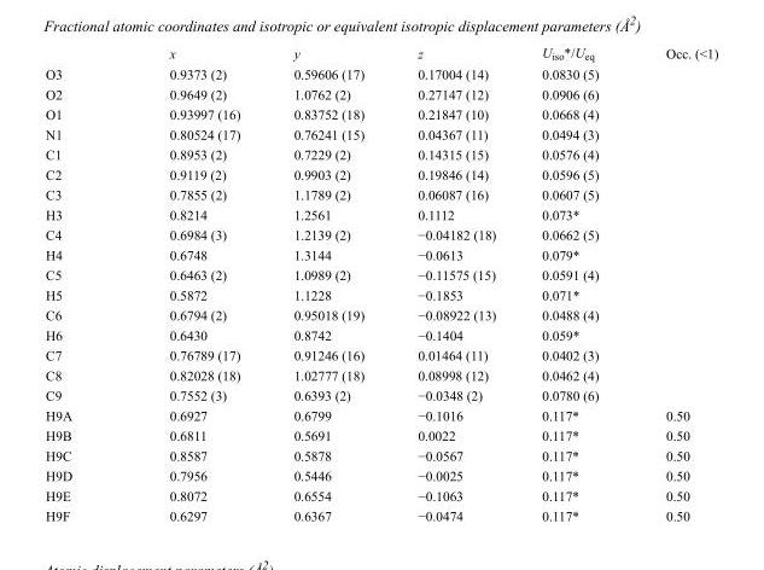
<table><thead><tr><td></td><td>x</td><td>y</td><td>z</td><td>U<sub>iso</sub>*/U<sub>eq</sub></td><td>Occ. (&lt;1)</td></tr></thead><tbody><tr><td>O3</td><td>0.9373 (2)</td><td>0.59606 (17)</td><td>0.17004 (14)</td><td>0.0830 (5)</td><td></td></tr><tr><td>O2</td><td>0.9649 (2)</td><td>1.0762 (2)</td><td>0.27147 (12)</td><td>0.0906 (6)</td><td></td></tr><tr><td>O1</td><td>0.93997 (16)</td><td>0.83752 (18)</td><td>0.21847 (10)</td><td>0.0668 (4)</td><td></td></tr><tr><td>N1</td><td>0.80524 (17)</td><td>0.76241 (15)</td><td>0.04367 (11)</td><td>0.0494 (3)</td><td></td></tr><tr><td>C1</td><td>0.8953 (2)</td><td>0.7229 (2)</td><td>0.14315 (15)</td><td>0.0576 (4)</td><td></td></tr><tr><td>C2</td><td>0.9119 (2)</td><td>0.9903 (2)</td><td>0.19846 (14)</td><td>0.0596 (5)</td><td></td></tr><tr><td>C3</td><td>0.7855 (2)</td><td>1.1789 (2)</td><td>0.06087 (16)</td><td>0.0607 (5)</td><td></td></tr><tr><td>H3</td><td>0.8214</td><td>1.2561</td><td>0.1112</td><td>0.073*</td><td></td></tr><tr><td>C4</td><td>0.6984 (3)</td><td>1.2139 (2)</td><td>−0.04182 (18)</td><td>0.0662 (5)</td><td></td></tr><tr><td>H4</td><td>0.6748</td><td>1.3144</td><td>−0.0613</td><td>0.079*</td><td></td></tr><tr><td>C5</td><td>0.6463 (2)</td><td>1.0989 (2)</td><td>−0.11575 (15)</td><td>0.0591 (4)</td><td></td></tr><tr><td>H5</td><td>0.5872</td><td>1.1228</td><td>−0.1853</td><td>0.071*</td><td></td></tr><tr><td>C6</td><td>0.6794 (2)</td><td>0.95018 (19)</td><td>−0.08922 (13)</td><td>0.0488 (4)</td><td></td></tr><tr><td>H6</td><td>0.6430</td><td>0.8742</td><td>−0.1404</td><td>0.059*</td><td></td></tr><tr><td>C7</td><td>0.76789 (17)</td><td>0.91246 (16)</td><td>0.01464 (11)</td><td>0.0402 (3)</td><td></td></tr><tr><td>C8</td><td>0.82028 (18)</td><td>1.02777 (18)</td><td>0.08998 (12)</td><td>0.0462 (4)</td><td></td></tr><tr><td>C9</td><td>0.7552 (3)</td><td>0.6393 (2)</td><td>−0.0348 (2)</td><td>0.0780 (6)</td><td></td></tr><tr><td>H9A</td><td>0.6927</td><td>0.6799</td><td>−0.1016</td><td>0.117*</td><td>0.50</td></tr><tr><td>H9B</td><td>0.6811</td><td>0.5691</td><td>0.0022</td><td>0.117*</td><td>0.50</td></tr><tr><td>H9C</td><td>0.8587</td><td>0.5878</td><td>−0.0567</td><td>0.117*</td><td>0.50</td></tr><tr><td>H9D</td><td>0.7956</td><td>0.5446</td><td>−0.0025</td><td>0.117*</td><td>0.50</td></tr><tr><td>H9E</td><td>0.8072</td><td>0.6554</td><td>−0.1063</td><td>0.117*</td><td>0.50</td></tr><tr><td>H9F</td><td>0.6297</td><td>0.6367</td><td>−0.0474</td><td>0.117*</td><td>0.50</td></tr></tbody></table>